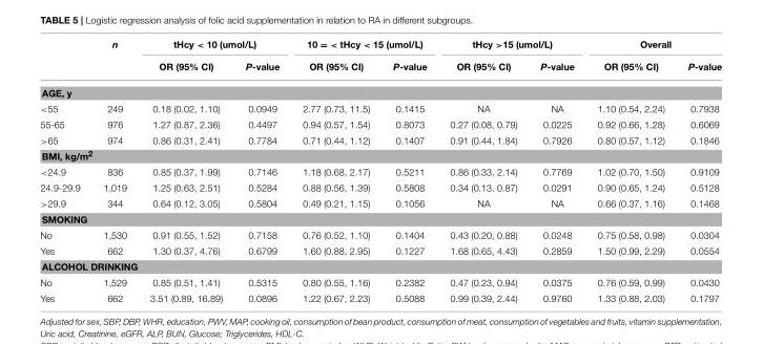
<table><thead><tr><td rowspan="2"></td><td rowspan="2">n</td><td colspan="2">tHcy &lt; 10 (umol/L)</td><td colspan="2">10 = &lt; tHcy &lt; 15 (umol/L)</td><td colspan="2">tHcy &gt;15 (umol/L)</td><td colspan="2">Overall</td></tr><tr><td>OR (95% CI)</td><td>P-value</td><td>OR (95% CI)</td><td>P-value</td><td>OR (95% CI)</td><td>P-value</td><td>OR (95% CI)</td><td>P-value</td></tr></thead><tbody><tr><td colspan="10">AGE, y</td></tr><tr><td>&lt;55</td><td>249</td><td>0.18 (0.02, 1.10)</td><td>0.0949</td><td>2.77 (0.73, 11.5)</td><td>0.1415</td><td>NA</td><td>NA</td><td>1.10 (0.54, 2.24)</td><td>0.7938</td></tr><tr><td>55-65</td><td>976</td><td>1.27 (0.87, 2.36)</td><td>0.4497</td><td>0.94 (0.57, 1.54)</td><td>0.8073</td><td>0.27 (0.08, 0.79)</td><td>0.0225</td><td>0.92 (0.66, 1.28)</td><td>0.6069</td></tr><tr><td>&gt;65</td><td>974</td><td>0.86 (0.31, 2.41)</td><td>0.7784</td><td>0.71 (0.44, 1.12)</td><td>0.1407</td><td>0.91 (0.44, 1.84)</td><td>0.7926</td><td>0.80 (0.57, 1.12)</td><td>0.1846</td></tr><tr><td colspan="10">BMI, kg/m<sup>2</sup></td></tr><tr><td>&lt;24.9</td><td>836</td><td>0.85 (0.37, 1.99)</td><td>0.7146</td><td>1.18 (0.68, 2.17)</td><td>0.5211</td><td>0.86 (0.33, 2.14)</td><td>0.7769</td><td>1.02 (0.70, 1.50)</td><td>0.9109</td></tr><tr><td>24.9-29.9</td><td>1,019</td><td>1.25 (0.63, 2.51)</td><td>0.5284</td><td>0.88 (0.56, 1.39)</td><td>0.5808</td><td>0.34 (0.13, 0.87)</td><td>0.0291</td><td>0.90 (0.65, 1.24)</td><td>0.5128</td></tr><tr><td>&gt;29.9</td><td>344</td><td>0.64 (0.12, 3.05)</td><td>0.5804</td><td>0.49 (0.21, 1.15)</td><td>0.1056</td><td>NA</td><td>NA</td><td>0.66 (0.37, 1.16)</td><td>0.1468</td></tr><tr><td colspan="10">SMOKING</td></tr><tr><td>No</td><td>1,530</td><td>0.91 (0.55, 1.52)</td><td>0.7158</td><td>0.76 (0.52, 1.10)</td><td>0.1404</td><td>0.43 (0.20, 0.88)</td><td>0.0248</td><td>0.75 (0.58, 0.98)</td><td>0.0304</td></tr><tr><td>Yes</td><td>662</td><td>1.30 (0.37, 4.76)</td><td>0.6799</td><td>1.60 (0.88, 2.95)</td><td>0.1227</td><td>1.68 (0.65, 4.43)</td><td>0.2859</td><td>1.50 (0.99, 2.29)</td><td>0.0554</td></tr><tr><td colspan="10">ALCOHOL DRINKING</td></tr><tr><td>No</td><td>1,529</td><td>0.85 (0.51, 1.41)</td><td>0.5315</td><td>0.80 (0.55, 1.16)</td><td>0.2382</td><td>0.47 (0.23, 0.94)</td><td>0.0375</td><td>0.76 (0.59, 0.99)</td><td>0.0430</td></tr><tr><td>Yes</td><td>662</td><td>3.51 (0.89, 16.89)</td><td>0.0896</td><td>1.22 (0.67, 2.23)</td><td>0.5088</td><td>0.99 (0.39, 2.44)</td><td>0.9760</td><td>1.33 (0.88, 2.03)</td><td>0.1797</td></tr></tbody></table>